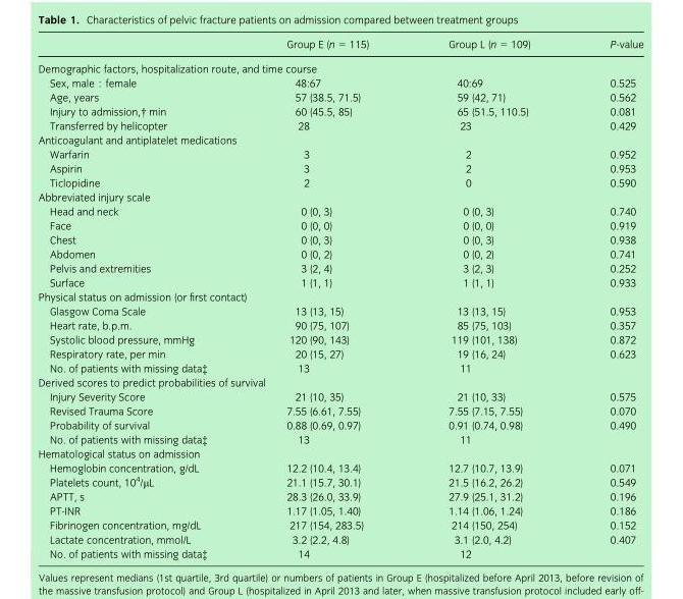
<table><thead><tr><td></td><td>Group E (n = 115)</td><td>Group L (n = 109)</td><td>P-value</td></tr></thead><tbody><tr><td colspan="4">Demographic factors, hospitalization route, and time course</td></tr><tr><td>Sex, male : female</td><td>48:67</td><td>40:69</td><td>0.525</td></tr><tr><td>Age, years</td><td>57 (38.5, 71.5)</td><td>59 (42, 71)</td><td>0.562</td></tr><tr><td>Injury to admission,† min</td><td>60 (45.5, 85)</td><td>65 (51.5, 110.5)</td><td>0.081</td></tr><tr><td>Transferred by helicopter</td><td>28</td><td>23</td><td>0.429</td></tr><tr><td colspan="4">Anticoagulant and antiplatelet medications</td></tr><tr><td>Warfarin</td><td>3</td><td>2</td><td>0.952</td></tr><tr><td>Aspirin</td><td>3</td><td>2</td><td>0.953</td></tr><tr><td>Ticlopidine</td><td>2</td><td>0</td><td>0.590</td></tr><tr><td colspan="4">Abbreviated injury scale</td></tr><tr><td>Head and neck</td><td>0 (0, 3)</td><td>0 (0, 3)</td><td>0.740</td></tr><tr><td>Face</td><td>0 (0, 0)</td><td>0 (0, 0)</td><td>0.919</td></tr><tr><td>Chest</td><td>0 (0, 3)</td><td>0 (0, 3)</td><td>0.938</td></tr><tr><td>Abdomen</td><td>0 (0, 2)</td><td>0 (0, 2)</td><td>0.741</td></tr><tr><td>Pelvis and extremities</td><td>3 (2, 4)</td><td>3 (2, 3)</td><td>0.252</td></tr><tr><td>Surface</td><td>1 (1, 1)</td><td>1 (1, 1)</td><td>0.933</td></tr><tr><td colspan="4">Physical status on admission (or first contact)</td></tr><tr><td>Glasgow Coma Scale</td><td>13 (13, 15)</td><td>13 (13, 15)</td><td>0.953</td></tr><tr><td>Heart rate, b.p.m.</td><td>90 (75, 107)</td><td>85 (75, 103)</td><td>0.357</td></tr><tr><td>Systolic blood pressure, mmHg</td><td>120 (90, 143)</td><td>119 (101, 138)</td><td>0.872</td></tr><tr><td>Respiratory rate, per min</td><td>20 (15, 27)</td><td>19 (16, 24)</td><td>0.623</td></tr><tr><td>No. of patients with missing data‡</td><td>13</td><td>11</td><td></td></tr><tr><td colspan="4">Derived scores to predict probabilities of survival</td></tr><tr><td>Injury Severity Score</td><td>21 (10, 35)</td><td>21 (10, 33)</td><td>0.575</td></tr><tr><td>Revised Trauma Score</td><td>7.55 (6.61, 7.55)</td><td>7.55 (7.15, 7.55)</td><td>0.070</td></tr><tr><td>Probability of survival</td><td>0.88 (0.69, 0.97)</td><td>0.91 (0.74, 0.98)</td><td>0.490</td></tr><tr><td>No. of patients with missing data‡</td><td>13</td><td>11</td><td></td></tr><tr><td colspan="4">Hematological status on admission</td></tr><tr><td>Hemoglobin concentration, g/dL</td><td>12.2 (10.4, 13.4)</td><td>12.7 (10.7, 13.9)</td><td>0.071</td></tr><tr><td>Platelets count, 10<sup>4</sup>/μL</td><td>21.1 (15.7, 30.1)</td><td>21.5 (16.2, 26.2)</td><td>0.549</td></tr><tr><td>APTT, s</td><td>28.3 (26.0, 33.9)</td><td>27.9 (25.1, 31.2)</td><td>0.196</td></tr><tr><td>PT-INR</td><td>1.17 (1.05, 1.40)</td><td>1.14 (1.06, 1.24)</td><td>0.186</td></tr><tr><td>Fibrinogen concentration, mg/dL</td><td>217 (154, 283.5)</td><td>214 (150, 254)</td><td>0.152</td></tr><tr><td>Lactate concentration, mmol/L</td><td>3.2 (2.2, 4.8)</td><td>3.1 (2.0, 4.2)</td><td>0.407</td></tr><tr><td>No. of patients with missing data‡</td><td>14</td><td>12</td><td></td></tr></tbody></table>